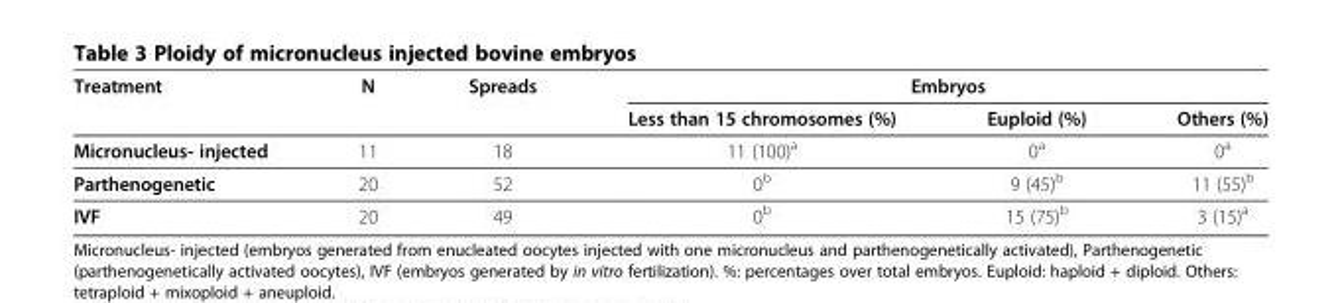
<table><thead><tr><td rowspan="2">Treatment</td><td rowspan="2">N</td><td rowspan="2">Spreads</td><td colspan="3">Embryos</td></tr><tr><td>Less than 15 chromosomes (%)</td><td>Euploid (%)</td><td>Others (%)</td></tr></thead><tbody><tr><td>Micronucleus- injected</td><td>11</td><td>18</td><td>11 (100)<sup>a</sup></td><td>0<sup>a</sup></td><td>0<sup>a</sup></td></tr><tr><td>Parthenogenetic</td><td>20</td><td>52</td><td>0<sup>b</sup></td><td>9 (45)<sup>b</sup></td><td>11 (55)<sup>b</sup></td></tr><tr><td>IVF</td><td>20</td><td>49</td><td>0<sup>b</sup></td><td>15 (75)<sup>b</sup></td><td>3 (15)<sup>a</sup></td></tr></tbody></table>